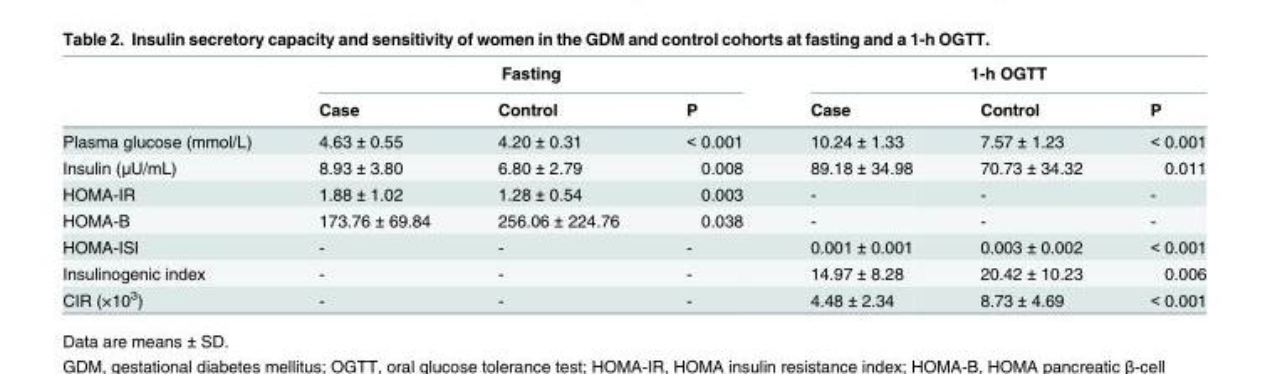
<table><thead><tr><td rowspan="2"></td><td colspan="3">Fasting</td><td colspan="3">1-h OGTT</td></tr><tr><td>Case</td><td>Control</td><td>P</td><td>Case</td><td>Control</td><td>P</td></tr></thead><tbody><tr><td>Plasma glucose (mmol/L)</td><td>4.63 ± 0.55</td><td>4.20 ± 0.31</td><td>&lt; 0.001</td><td>10.24 ± 1.33</td><td>7.57 ± 1.23</td><td>&lt; 0.001</td></tr><tr><td>Insulin (μU/mL)</td><td>8.93 ± 3.80</td><td>6.80 ± 2.79</td><td>0.008</td><td>89.18 ± 34.98</td><td>70.73 ± 34.32</td><td>0.011</td></tr><tr><td>HOMA-IR</td><td>1.88 ± 1.02</td><td>1.28 ± 0.54</td><td>0.003</td><td>-</td><td>-</td><td>-</td></tr><tr><td>HOMA-B</td><td>173.76 ± 69.84</td><td>256.06 ± 224.76</td><td>0.038</td><td>-</td><td>-</td><td>-</td></tr><tr><td>HOMA-ISI</td><td>-</td><td>-</td><td>-</td><td>0.001 ± 0.001</td><td>0.003 ± 0.002</td><td>&lt; 0.001</td></tr><tr><td>Insulinogenic index</td><td>-</td><td>-</td><td>-</td><td>14.97 ± 8.28</td><td>20.42 ± 10.23</td><td>0.006</td></tr><tr><td>CIR (×10<sup>3</sup>)</td><td>-</td><td>-</td><td>-</td><td>4.48 ± 2.34</td><td>8.73 ± 4.69</td><td>&lt; 0.001</td></tr></tbody></table>